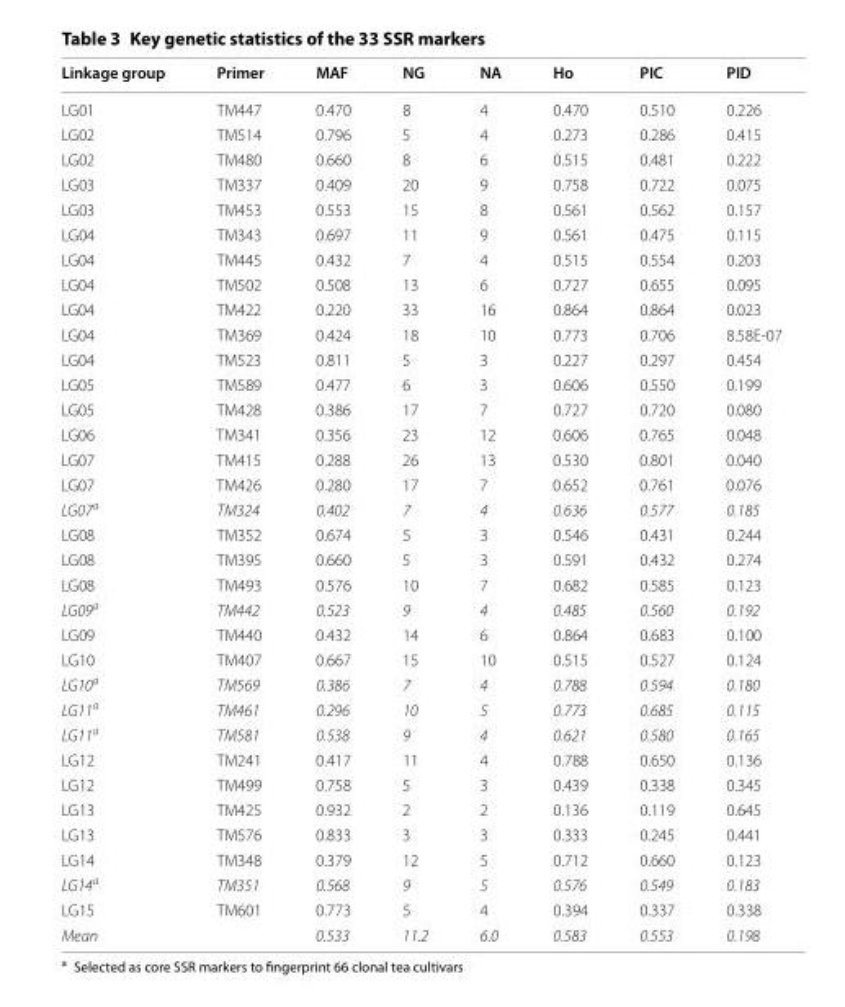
<table><thead><tr><td>Linkage group</td><td>Primer</td><td>MAF</td><td>NG</td><td>NA</td><td>Ho</td><td>PIC</td><td>PID</td></tr></thead><tbody><tr><td>LG01</td><td>TM447</td><td>0.470</td><td>8</td><td>4</td><td>0.470</td><td>0.510</td><td>0.226</td></tr><tr><td>LG02</td><td>TM514</td><td>0.796</td><td>5</td><td>4</td><td>0.273</td><td>0.286</td><td>0.415</td></tr><tr><td>LG02</td><td>TM480</td><td>0.660</td><td>8</td><td>6</td><td>0.515</td><td>0.481</td><td>0.222</td></tr><tr><td>LG03</td><td>TM337</td><td>0.409</td><td>20</td><td>9</td><td>0.758</td><td>0.722</td><td>0.075</td></tr><tr><td>LG03</td><td>TM453</td><td>0.553</td><td>15</td><td>8</td><td>0.561</td><td>0.562</td><td>0.157</td></tr><tr><td>LG04</td><td>TM343</td><td>0.697</td><td>11</td><td>9</td><td>0.561</td><td>0.475</td><td>0.115</td></tr><tr><td>LG04</td><td>TM445</td><td>0.432</td><td>7</td><td>4</td><td>0.515</td><td>0.554</td><td>0.203</td></tr><tr><td>LG04</td><td>TM502</td><td>0.508</td><td>13</td><td>6</td><td>0.727</td><td>0.655</td><td>0.095</td></tr><tr><td>LG04</td><td>TM422</td><td>0.220</td><td>33</td><td>16</td><td>0.864</td><td>0.864</td><td>0.023</td></tr><tr><td>LG04</td><td>TM369</td><td>0.424</td><td>18</td><td>10</td><td>0.773</td><td>0.706</td><td>8.58E-07</td></tr><tr><td>LG04</td><td>TM523</td><td>0.811</td><td>5</td><td>3</td><td>0.227</td><td>0.297</td><td>0.454</td></tr><tr><td>LG05</td><td>TM589</td><td>0.477</td><td>6</td><td>3</td><td>0.606</td><td>0.550</td><td>0.199</td></tr><tr><td>LG05</td><td>TM428</td><td>0.386</td><td>17</td><td>7</td><td>0.727</td><td>0.720</td><td>0.080</td></tr><tr><td>LG06</td><td>TM341</td><td>0.356</td><td>23</td><td>12</td><td>0.606</td><td>0.765</td><td>0.048</td></tr><tr><td>LG07</td><td>TM415</td><td>0.288</td><td>26</td><td>13</td><td>0.530</td><td>0.801</td><td>0.040</td></tr><tr><td>LG07</td><td>TM426</td><td>0.280</td><td>17</td><td>7</td><td>0.652</td><td>0.761</td><td>0.076</td></tr><tr><td>LG07<sup>a</sup></td><td>TM324</td><td>0.402</td><td>7</td><td>4</td><td>0.636</td><td>0.577</td><td>0.185</td></tr><tr><td>LG08</td><td>TM352</td><td>0.674</td><td>5</td><td>3</td><td>0.546</td><td>0.431</td><td>0.244</td></tr><tr><td>LG08</td><td>TM395</td><td>0.660</td><td>5</td><td>3</td><td>0.591</td><td>0.432</td><td>0.274</td></tr><tr><td>LG08</td><td>TM493</td><td>0.576</td><td>10</td><td>7</td><td>0.682</td><td>0.585</td><td>0.123</td></tr><tr><td>LG09<sup>a</sup></td><td>TM442</td><td>0.523</td><td>9</td><td>4</td><td>0.485</td><td>0.560</td><td>0.192</td></tr><tr><td>LG09</td><td>TM440</td><td>0.432</td><td>14</td><td>6</td><td>0.864</td><td>0.683</td><td>0.100</td></tr><tr><td>LG10</td><td>TM407</td><td>0.667</td><td>15</td><td>10</td><td>0.515</td><td>0.527</td><td>0.124</td></tr><tr><td>LG10<sup>a</sup></td><td>TM569</td><td>0.386</td><td>7</td><td>4</td><td>0.788</td><td>0.594</td><td>0.180</td></tr><tr><td>LG11<sup>a</sup></td><td>TM461</td><td>0.296</td><td>10</td><td>5</td><td>0.773</td><td>0.685</td><td>0.115</td></tr><tr><td>LG11<sup>a</sup></td><td>TM581</td><td>0.538</td><td>9</td><td>4</td><td>0.621</td><td>0.580</td><td>0.165</td></tr><tr><td>LG12</td><td>TM241</td><td>0.417</td><td>11</td><td>4</td><td>0.788</td><td>0.650</td><td>0.136</td></tr><tr><td>LG12</td><td>TM499</td><td>0.758</td><td>5</td><td>3</td><td>0.439</td><td>0.338</td><td>0.345</td></tr><tr><td>LG13</td><td>TM425</td><td>0.932</td><td>2</td><td>2</td><td>0.136</td><td>0.119</td><td>0.645</td></tr><tr><td>LG13</td><td>TM576</td><td>0.833</td><td>3</td><td>3</td><td>0.333</td><td>0.245</td><td>0.441</td></tr><tr><td>LG14</td><td>TM348</td><td>0.379</td><td>12</td><td>5</td><td>0.712</td><td>0.660</td><td>0.123</td></tr><tr><td>LG14<sup>a</sup></td><td>TM351</td><td>0.568</td><td>9</td><td>5</td><td>0.576</td><td>0.549</td><td>0.183</td></tr><tr><td>LG15</td><td>TM601</td><td>0.773</td><td>5</td><td>4</td><td>0.394</td><td>0.337</td><td>0.338</td></tr><tr><td colspan="2">Mean</td><td>0.533</td><td>11.2</td><td>6.0</td><td>0.583</td><td>0.553</td><td>0.198</td></tr></tbody></table>